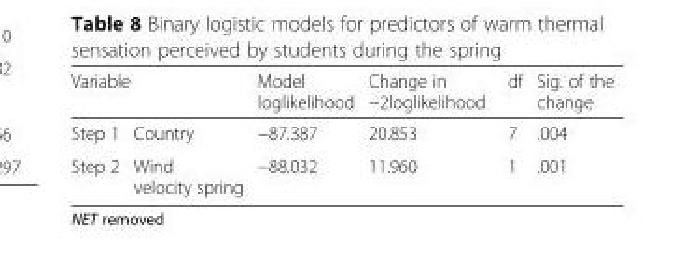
<table><thead><tr><td colspan="2">Variable</td><td rowspan="2">Model loglikelihood −87.387</td><td rowspan="2">Change in −2loglikelihood 20.853</td><td rowspan="2">df 7</td><td rowspan="2">Sig. of the change .004</td></tr><tr><td>Step 1</td><td>Country</td></tr></thead><tbody><tr><td>Step 2</td><td>Wind velocity spring</td><td>−88.032</td><td>11.960</td><td>1</td><td>.001</td></tr></tbody></table>